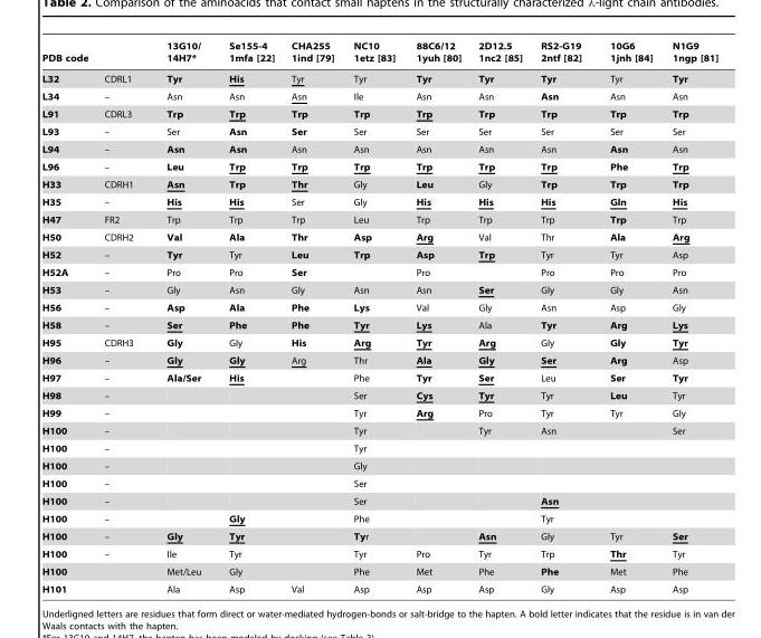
<table><thead><tr><td>PDB code</td><td></td><td>13G10/ 14H7*</td><td>Se155-4 1mfa [22]</td><td>CHA255 1ind [79]</td><td>NC10 1etz [83]</td><td>88C6/12 1yuh [80]</td><td>2D12.5 1nc2 [85]</td><td>RS2-G19 2ntf [82]</td><td>10G6 1jnh [84]</td><td>N1G9 1ngp [81]</td></tr></thead><tbody><tr><td>L32</td><td>CDRL1</td><td>Tyr</td><td>His</td><td>Tyr</td><td>Tyr</td><td>Tyr</td><td>Tyr</td><td>Tyr</td><td>Tyr</td><td>Tyr</td></tr><tr><td>L34</td><td>–</td><td>Asn</td><td>Asn</td><td>Asn</td><td>Ile</td><td>Asn</td><td>Asn</td><td>Asn</td><td>Asn</td><td>Asn</td></tr><tr><td>L91</td><td>CDRL3</td><td>Trp</td><td>Trp</td><td>Trp</td><td>Trp</td><td>Trp</td><td>Trp</td><td>Trp</td><td>Trp</td><td>Trp</td></tr><tr><td>L93</td><td>–</td><td>Ser</td><td>Asn</td><td>Ser</td><td>Ser</td><td>Ser</td><td>Ser</td><td>Ser</td><td>Ser</td><td>Ser</td></tr><tr><td>L94</td><td>–</td><td>Asn</td><td>Asn</td><td>Asn</td><td>Asn</td><td>Asn</td><td>Asn</td><td>Asn</td><td>Asn</td><td>Asn</td></tr><tr><td>L96</td><td>–</td><td>Leu</td><td>Trp</td><td>Trp</td><td>Trp</td><td>Trp</td><td>Trp</td><td>Trp</td><td>Phe</td><td>Trp</td></tr><tr><td>H33</td><td>CDRH1</td><td>Asn</td><td>Trp</td><td>Thr</td><td>Gly</td><td>Leu</td><td>Gly</td><td>Trp</td><td>Trp</td><td>Trp</td></tr><tr><td>H35</td><td>–</td><td>His</td><td>His</td><td>Ser</td><td>Gly</td><td>His</td><td>His</td><td>His</td><td>Gln</td><td>His</td></tr><tr><td>H47</td><td>FR2</td><td>Trp</td><td>Trp</td><td>Trp</td><td>Leu</td><td>Trp</td><td>Trp</td><td>Trp</td><td>Trp</td><td>Trp</td></tr><tr><td>H50</td><td>CDRH2</td><td>Val</td><td>Ala</td><td>Thr</td><td>Asp</td><td>Arg</td><td>Val</td><td>Thr</td><td>Ala</td><td>Arg</td></tr><tr><td>H52</td><td>–</td><td>Tyr</td><td>Tyr</td><td>Leu</td><td>Trp</td><td>Asp</td><td>Trp</td><td>Tyr</td><td>Tyr</td><td>Asp</td></tr><tr><td>H52A</td><td>–</td><td>Pro</td><td>Pro</td><td>Ser</td><td></td><td>Pro</td><td></td><td>Pro</td><td>Pro</td><td>Pro</td></tr><tr><td>H53</td><td>–</td><td>Gly</td><td>Asn</td><td>Gly</td><td>Asn</td><td>Asn</td><td>Ser</td><td>Gly</td><td>Gly</td><td>Asn</td></tr><tr><td>H56</td><td>–</td><td>Asp</td><td>Ala</td><td>Phe</td><td>Lys</td><td>Val</td><td>Gly</td><td>Asn</td><td>Asp</td><td>Gly</td></tr><tr><td>H58</td><td>–</td><td>Ser</td><td>Phe</td><td>Phe</td><td>Tyr</td><td>Lys</td><td>Ala</td><td>Tyr</td><td>Arg</td><td>Lys</td></tr><tr><td>H95</td><td>CDRH3</td><td>Gly</td><td>Gly</td><td>His</td><td>Arg</td><td>Tyr</td><td>Arg</td><td>Gly</td><td>Gly</td><td>Tyr</td></tr><tr><td>H96</td><td>–</td><td>Gly</td><td>Gly</td><td>Arg</td><td>Thr</td><td>Ala</td><td>Gly</td><td>Ser</td><td>Arg</td><td>Asp</td></tr><tr><td>H97</td><td>–</td><td>Ala/Ser</td><td>His</td><td></td><td>Phe</td><td>Tyr</td><td>Ser</td><td>Leu</td><td>Ser</td><td>Tyr</td></tr><tr><td>H98</td><td>–</td><td></td><td></td><td></td><td>Ser</td><td>Cys</td><td>Tyr</td><td>Tyr</td><td>Leu</td><td>Tyr</td></tr><tr><td>H99</td><td>–</td><td></td><td></td><td></td><td>Tyr</td><td>Arg</td><td>Pro</td><td>Tyr</td><td>Tyr</td><td>Gly</td></tr><tr><td>H100</td><td>–</td><td></td><td></td><td></td><td>Tyr</td><td></td><td>Tyr</td><td>Asn</td><td></td><td>Ser</td></tr><tr><td>H100</td><td>–</td><td></td><td></td><td></td><td>Tyr</td><td></td><td></td><td></td><td></td><td></td></tr><tr><td>H100</td><td>–</td><td></td><td></td><td></td><td>Gly</td><td></td><td></td><td></td><td></td><td></td></tr><tr><td>H100</td><td>–</td><td></td><td></td><td></td><td>Ser</td><td></td><td></td><td></td><td></td><td></td></tr><tr><td>H100</td><td>–</td><td></td><td></td><td></td><td>Ser</td><td></td><td></td><td>Asn</td><td></td><td></td></tr><tr><td>H100</td><td>–</td><td></td><td>Gly</td><td></td><td>Phe</td><td></td><td></td><td>Tyr</td><td></td><td></td></tr><tr><td>H100</td><td>–</td><td>Gly</td><td>Tyr</td><td></td><td>Tyr</td><td></td><td>Asn</td><td>Gly</td><td>Tyr</td><td>Ser</td></tr><tr><td>H100</td><td>–</td><td>Ile</td><td>Tyr</td><td></td><td>Tyr</td><td>Pro</td><td>Tyr</td><td>Trp</td><td>Thr</td><td>Tyr</td></tr><tr><td>H100</td><td></td><td>Met/Leu</td><td>Gly</td><td></td><td>Phe</td><td>Met</td><td>Phe</td><td>Phe</td><td>Met</td><td>Phe</td></tr><tr><td>H101</td><td></td><td>Ala</td><td>Asp</td><td>Val</td><td>Asp</td><td>Asp</td><td>Asp</td><td>Gly</td><td>Asp</td><td>Asp</td></tr></tbody></table>